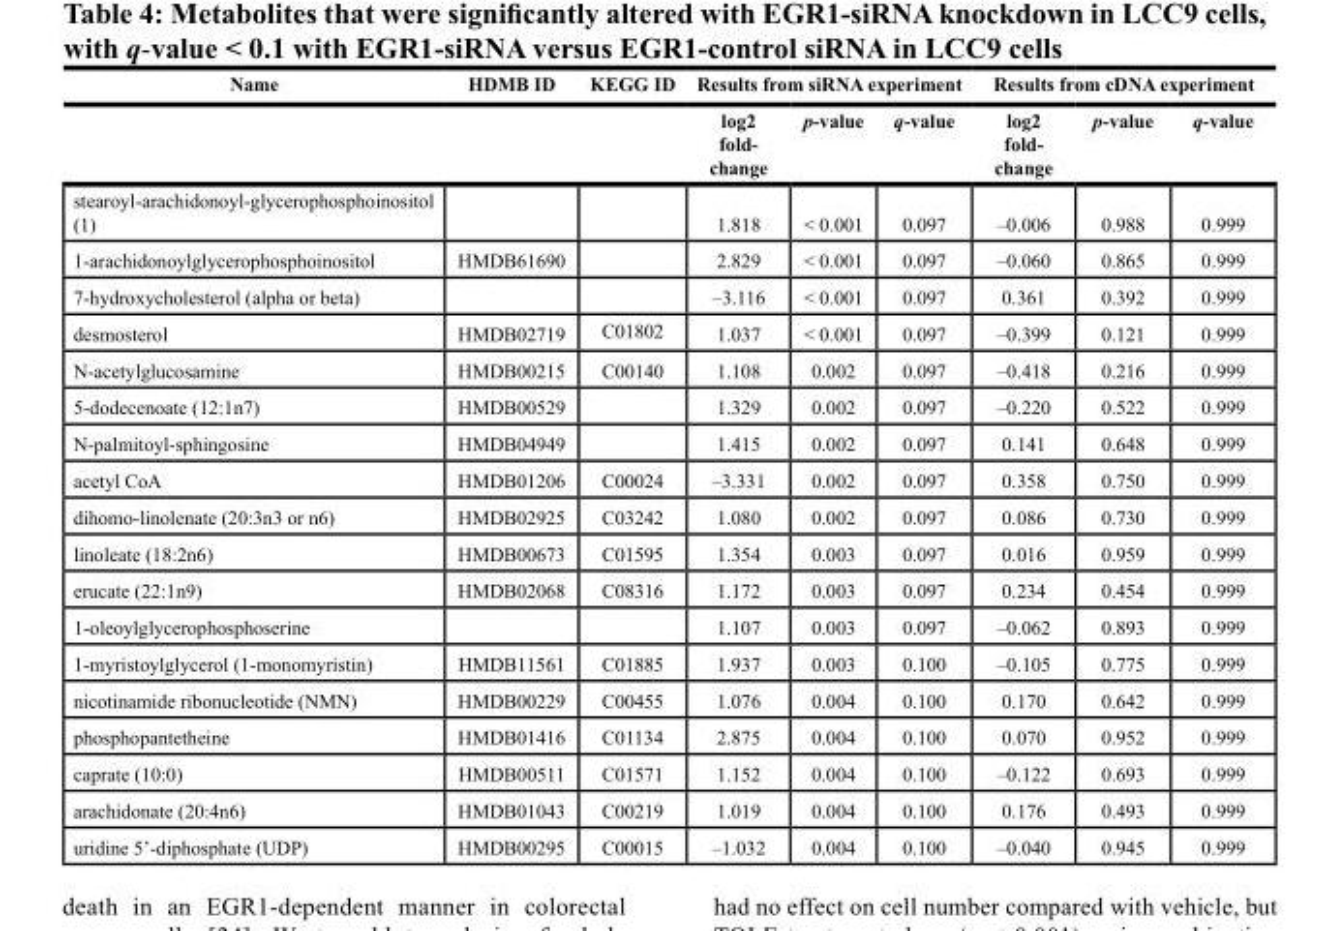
<table><thead><tr><td rowspan="2">Name</td><td rowspan="2">HDMB ID</td><td rowspan="2">KEGG ID</td><td colspan="3">Results from siRNA experiment</td><td colspan="3">Results from cDNA experiment</td></tr><tr><td>log2 fold- change</td><td>p-value</td><td>q-value</td><td>log2 fold- change</td><td>p-value</td><td>q-value</td></tr></thead><tbody><tr><td>stearoyl-arachidonoyl-glycerophosphoinositol (1)</td><td></td><td></td><td>1.818</td><td>&lt; 0.001</td><td>0.097</td><td>–0.006</td><td>0.988</td><td>0.999</td></tr><tr><td>1-arachidonoylglycerophosphoinositol</td><td>HMDB61690</td><td></td><td>2.829</td><td>&lt; 0.001</td><td>0.097</td><td>–0.060</td><td>0.865</td><td>0.999</td></tr><tr><td>7-hydroxycholesterol (alpha or beta)</td><td></td><td></td><td>–3.116</td><td>&lt; 0.001</td><td>0.097</td><td>0.361</td><td>0.392</td><td>0.999</td></tr><tr><td>desmosterol</td><td>HMDB02719</td><td>C01802</td><td>1.037</td><td>&lt; 0.001</td><td>0.097</td><td>–0.399</td><td>0.121</td><td>0.999</td></tr><tr><td>N-acetylglucosamine</td><td>HMDB00215</td><td>C00140</td><td>1.108</td><td>0.002</td><td>0.097</td><td>–0.418</td><td>0.216</td><td>0.999</td></tr><tr><td>5-dodecenoate (12:1n7)</td><td>HMDB00529</td><td></td><td>1.329</td><td>0.002</td><td>0.097</td><td>–0.220</td><td>0.522</td><td>0.999</td></tr><tr><td>N-palmitoyl-sphingosine</td><td>HMDB04949</td><td></td><td>1.415</td><td>0.002</td><td>0.097</td><td>0.141</td><td>0.648</td><td>0.999</td></tr><tr><td>acetyl CoA</td><td>HMDB01206</td><td>C00024</td><td>–3.331</td><td>0.002</td><td>0.097</td><td>0.358</td><td>0.750</td><td>0.999</td></tr><tr><td>dihomo-linolenate (20:3n3 or n6)</td><td>HMDB02925</td><td>C03242</td><td>1.080</td><td>0.002</td><td>0.097</td><td>0.086</td><td>0.730</td><td>0.999</td></tr><tr><td>linoleate (18:2n6)</td><td>HMDB00673</td><td>C01595</td><td>1.354</td><td>0.003</td><td>0.097</td><td>0.016</td><td>0.959</td><td>0.999</td></tr><tr><td>erucate (22:1n9)</td><td>HMDB02068</td><td>C08316</td><td>1.172</td><td>0.003</td><td>0.097</td><td>0.234</td><td>0.454</td><td>0.999</td></tr><tr><td>1-oleoylglycerophosphoserine</td><td></td><td></td><td>1.107</td><td>0.003</td><td>0.097</td><td>–0.062</td><td>0.893</td><td>0.999</td></tr><tr><td>1-myristoylglycerol (1-monomyristin)</td><td>HMDB11561</td><td>C01885</td><td>1.937</td><td>0.003</td><td>0.100</td><td>–0.105</td><td>0.775</td><td>0.999</td></tr><tr><td>nicotinamide ribonucleotide (NMN)</td><td>HMDB00229</td><td>C00455</td><td>1.076</td><td>0.004</td><td>0.100</td><td>0.170</td><td>0.642</td><td>0.999</td></tr><tr><td>phosphopantetheine</td><td>HMDB01416</td><td>C01134</td><td>2.875</td><td>0.004</td><td>0.100</td><td>0.070</td><td>0.952</td><td>0.999</td></tr><tr><td>caprate (10:0)</td><td>HMDB00511</td><td>C01571</td><td>1.152</td><td>0.004</td><td>0.100</td><td>–0.122</td><td>0.693</td><td>0.999</td></tr><tr><td>arachidonate (20:4n6)</td><td>HMDB01043</td><td>C00219</td><td>1.019</td><td>0.004</td><td>0.100</td><td>0.176</td><td>0.493</td><td>0.999</td></tr><tr><td>uridine 5’-diphosphate (UDP)</td><td>HMDB00295</td><td>C00015</td><td>–1.032</td><td>0.004</td><td>0.100</td><td>–0.040</td><td>0.945</td><td>0.999</td></tr></tbody></table>